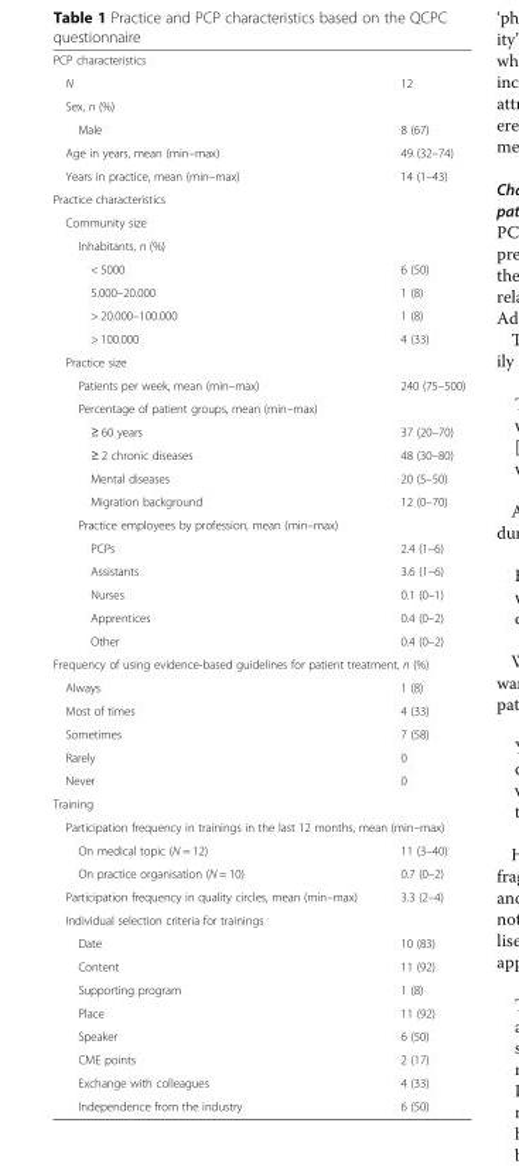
<table><tbody><tr><td colspan="2">PCP characteristics</td></tr><tr><td>N</td><td>12</td></tr><tr><td colspan="2">Sex, n (%)</td></tr><tr><td>Male</td><td>8 (67)</td></tr><tr><td>Age in years, mean (min–max)</td><td>49 (32–74)</td></tr><tr><td>Years in practice, mean (min–max)</td><td>14 (1–43)</td></tr><tr><td colspan="2">Practice characteristics</td></tr><tr><td colspan="2">Community size</td></tr><tr><td colspan="2">Inhabitants, n (%)</td></tr><tr><td>&lt; 5000</td><td>6 (50)</td></tr><tr><td>5.000–20.000</td><td>1 (8)</td></tr><tr><td>&gt; 20.000–100.000</td><td>1 (8)</td></tr><tr><td>&gt; 100.000</td><td>4 (33)</td></tr><tr><td colspan="2">Practice size</td></tr><tr><td>Patients per week, mean (min–max)</td><td>240 (75–500)</td></tr><tr><td colspan="2">Percentage of patient groups, mean (min–max)</td></tr><tr><td>≥ 60 years</td><td>37 (20–70)</td></tr><tr><td>≥ 2 chronic diseases</td><td>48 (30–80)</td></tr><tr><td>Mental diseases</td><td>20 (5–50)</td></tr><tr><td>Migration background</td><td>12 (0–70)</td></tr><tr><td colspan="2">Practice employees by profession, mean (min–max)</td></tr><tr><td>PCPs</td><td>2.4 (1–6)</td></tr><tr><td>Assistants</td><td>3.6 (1–6)</td></tr><tr><td>Nurses</td><td>0.1 (0–1)</td></tr><tr><td>Apprentices</td><td>0.4 (0–2)</td></tr><tr><td>Other</td><td>0.4 (0–2)</td></tr><tr><td colspan="2">Frequency of using evidence-based guidelines for patient treatment, n (%)</td></tr><tr><td>Always</td><td>1 (8)</td></tr><tr><td>Most of times</td><td>4 (33)</td></tr><tr><td>Sometimes</td><td>7 (58)</td></tr><tr><td>Rarely</td><td>0</td></tr><tr><td>Never</td><td>0</td></tr><tr><td colspan="2">Training</td></tr><tr><td colspan="2">Participation frequency in trainings in the last 12 months, mean (min–max)</td></tr><tr><td>On medical topic (N = 12)</td><td>11 (3–40)</td></tr><tr><td>On practice organisation (N = 10)</td><td>0.7 (0–2)</td></tr><tr><td>Participation frequency in quality circles, mean (min–max)</td><td>3.3 (2–4)</td></tr><tr><td colspan="2">Individual selection criteria for trainings</td></tr><tr><td>Date</td><td>10 (83)</td></tr><tr><td>Content</td><td>11 (92)</td></tr><tr><td>Supporting program</td><td>1 (8)</td></tr><tr><td>Place</td><td>11 (92)</td></tr><tr><td>Speaker</td><td>6 (50)</td></tr><tr><td>CME points</td><td>2 (17)</td></tr><tr><td>Exchange with colleagues</td><td>4 (33)</td></tr><tr><td>Independence from the industry</td><td>6 (50)</td></tr></tbody></table>